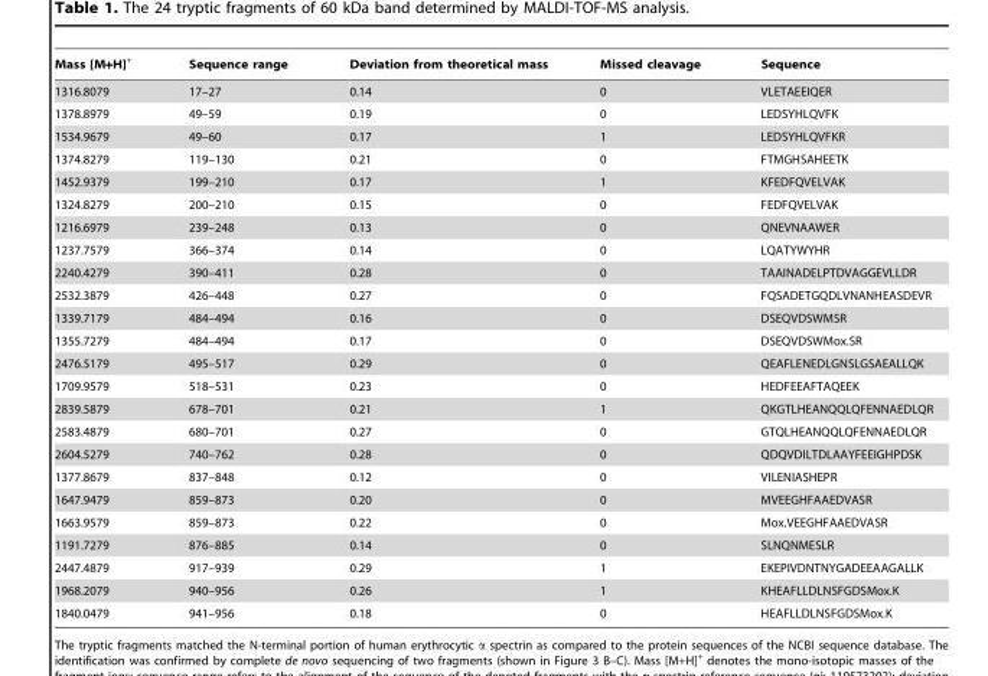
<table><thead><tr><td>Mass [M+H]<sup>+</sup></td><td>Sequence range</td><td>Deviation from theoretical mass</td><td>Missed cleavage</td><td>Sequence</td></tr></thead><tbody><tr><td>1316.8079</td><td>17–27</td><td>0.14</td><td>0</td><td>VLETAEEIQER</td></tr><tr><td>1378.8979</td><td>49–59</td><td>0.19</td><td>0</td><td>LEDSYHLQVFK</td></tr><tr><td>1534.9679</td><td>49–60</td><td>0.17</td><td>1</td><td>LEDSYHLQVFKR</td></tr><tr><td>1374.8279</td><td>119–130</td><td>0.21</td><td>0</td><td>FTMGHSAHEETK</td></tr><tr><td>1452.9379</td><td>199–210</td><td>0.17</td><td>1</td><td>KFEDFQVELVAK</td></tr><tr><td>1324.8279</td><td>200–210</td><td>0.15</td><td>0</td><td>FEDFQVELVAK</td></tr><tr><td>1216.6979</td><td>239–248</td><td>0.13</td><td>0</td><td>QNEVNAAWER</td></tr><tr><td>1237.7579</td><td>366–374</td><td>0.14</td><td>0</td><td>LQATYWYHR</td></tr><tr><td>2240.4279</td><td>390–411</td><td>0.28</td><td>0</td><td>TAAINADELPTDVAGGEVLLDR</td></tr><tr><td>2532.3879</td><td>426–448</td><td>0.27</td><td>0</td><td>FQSADETGQDLVNANHEASDEVR</td></tr><tr><td>1339.7179</td><td>484–494</td><td>0.16</td><td>0</td><td>DSEQVDSWMSR</td></tr><tr><td>1355.7279</td><td>484–494</td><td>0.17</td><td>0</td><td>DSEQVDSWMox.SR</td></tr><tr><td>2476.5179</td><td>495–517</td><td>0.29</td><td>0</td><td>QEAFLENEDLGNSLGSAEALLQK</td></tr><tr><td>1709.9579</td><td>518–531</td><td>0.23</td><td>0</td><td>HEDFEEAFTAQEEK</td></tr><tr><td>2839.5879</td><td>678–701</td><td>0.21</td><td>1</td><td>QKGTLHEANQQLQFENNAEDLQR</td></tr><tr><td>2583.4879</td><td>680–701</td><td>0.27</td><td>0</td><td>GTQLHEANQQLQFENNAEDLQR</td></tr><tr><td>2604.5279</td><td>740–762</td><td>0.28</td><td>0</td><td>QDQVDILTDLAAYFEEIGHPDSK</td></tr><tr><td>1377.8679</td><td>837–848</td><td>0.12</td><td>0</td><td>VILENIASHEPR</td></tr><tr><td>1647.9479</td><td>859–873</td><td>0.20</td><td>0</td><td>MVEEGHFAAEDVASR</td></tr><tr><td>1663.9579</td><td>859–873</td><td>0.22</td><td>0</td><td>Mox.VEEGHFAAEDVASR</td></tr><tr><td>1191.7279</td><td>876–885</td><td>0.14</td><td>0</td><td>SLNQNMESLR</td></tr><tr><td>2447.4879</td><td>917–939</td><td>0.29</td><td>1</td><td>EKEPIVDNTNYGADEEAAGALLK</td></tr><tr><td>1968.2079</td><td>940–956</td><td>0.26</td><td>1</td><td>KHEAFLLDLNSFGDSMox.K</td></tr><tr><td>1840.0479</td><td>941–956</td><td>0.18</td><td>0</td><td>HEAFLLDLNSFGDSMox.K</td></tr></tbody></table>